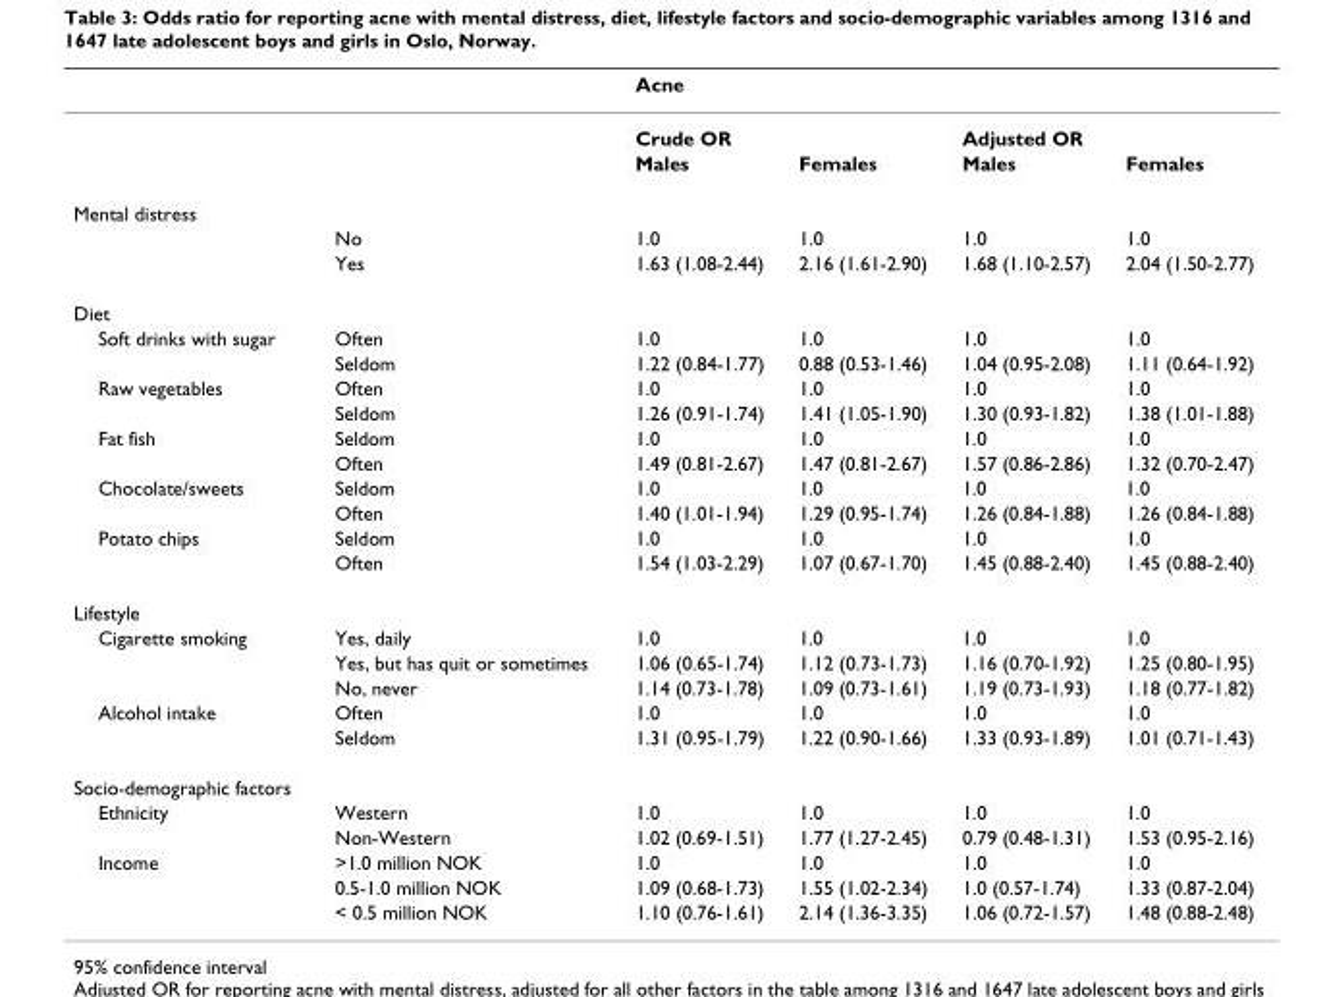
<table><thead><tr><td rowspan="3"></td><td rowspan="3"></td><td colspan="4">Acne</td></tr><tr><td colspan="2">Crude OR</td><td colspan="2">Adjusted OR</td></tr><tr><td>Males</td><td>Females</td><td>Males</td><td>Females</td></tr></thead><tbody><tr><td colspan="6">Mental distress</td></tr><tr><td></td><td>No</td><td>1.0</td><td>1.0</td><td>1.0</td><td>1.0</td></tr><tr><td></td><td>Yes</td><td>1.63 (1.08-2.44)</td><td>2.16 (1.61-2.90)</td><td>1.68 (1.10-2.57)</td><td>2.04 (1.50-2.77)</td></tr><tr><td colspan="6">Diet</td></tr><tr><td rowspan="2">Soft drinks with sugar</td><td>Often</td><td>1.0</td><td>1.0</td><td>1.0</td><td>1.0</td></tr><tr><td>Seldom</td><td>1.22 (0.84-1.77)</td><td>0.88 (0.53-1.46)</td><td>1.04 (0.95-2.08)</td><td>1.11 (0.64-1.92)</td></tr><tr><td rowspan="2">Raw vegetables</td><td>Often</td><td>1.0</td><td>1.0</td><td>1.0</td><td>1.0</td></tr><tr><td>Seldom</td><td>1.26 (0.91-1.74)</td><td>1.41 (1.05-1.90)</td><td>1.30 (0.93-1.82)</td><td>1.38 (1.01-1.88)</td></tr><tr><td rowspan="2">Fat fish</td><td>Seldom</td><td>1.0</td><td>1.0</td><td>1.0</td><td>1.0</td></tr><tr><td>Often</td><td>1.49 (0.81-2.67)</td><td>1.47 (0.81-2.67)</td><td>1.57 (0.86-2.86)</td><td>1.32 (0.70-2.47)</td></tr><tr><td rowspan="2">Chocolate/sweets</td><td>Seldom</td><td>1.0</td><td>1.0</td><td>1.0</td><td>1.0</td></tr><tr><td>Often</td><td>1.40 (1.01-1.94)</td><td>1.29 (0.95-1.74)</td><td>1.26 (0.84-1.88)</td><td>1.26 (0.84-1.88)</td></tr><tr><td rowspan="2">Potato chips</td><td>Seldom</td><td>1.0</td><td>1.0</td><td>1.0</td><td>1.0</td></tr><tr><td>Often</td><td>1.54 (1.03-2.29)</td><td>1.07 (0.67-1.70)</td><td>1.45 (0.88-2.40)</td><td>1.45 (0.88-2.40)</td></tr><tr><td colspan="6">Lifestyle</td></tr><tr><td rowspan="3">Cigarette smoking</td><td>Yes, daily</td><td>1.0</td><td>1.0</td><td>1.0</td><td>1.0</td></tr><tr><td>Yes, but has quit or sometimes</td><td>1.06 (0.65-1.74)</td><td>1.12 (0.73-1.73)</td><td>1.16 (0.70-1.92)</td><td>1.25 (0.80-1.95)</td></tr><tr><td>No, never</td><td>1.14 (0.73-1.78)</td><td>1.09 (0.73-1.61)</td><td>1.19 (0.73-1.93)</td><td>1.18 (0.77-1.82)</td></tr><tr><td rowspan="2">Alcohol intake</td><td>Often</td><td>1.0</td><td>1.0</td><td>1.0</td><td>1.0</td></tr><tr><td>Seldom</td><td>1.31 (0.95-1.79)</td><td>1.22 (0.90-1.66)</td><td>1.33 (0.93-1.89)</td><td>1.01 (0.71-1.43)</td></tr><tr><td colspan="6">Socio-demographic factors</td></tr><tr><td rowspan="2">Ethnicity</td><td>Western</td><td>1.0</td><td>1.0</td><td>1.0</td><td>1.0</td></tr><tr><td>Non-Western</td><td>1.02 (0.69-1.51)</td><td>1.77 (1.27-2.45)</td><td>0.79 (0.48-1.31)</td><td>1.53 (0.95-2.16)</td></tr><tr><td rowspan="3">Income</td><td>&gt;1.0 million NOK</td><td>1.0</td><td>1.0</td><td>1.0</td><td>1.0</td></tr><tr><td>0.5-1.0 million NOK</td><td>1.09 (0.68-1.73)</td><td>1.55 (1.02-2.34)</td><td>1.0 (0.57-1.74)</td><td>1.33 (0.87-2.04)</td></tr><tr><td>&lt; 0.5 million NOK</td><td>1.10 (0.76-1.61)</td><td>2.14 (1.36-3.35)</td><td>1.06 (0.72-1.57)</td><td>1.48 (0.88-2.48)</td></tr></tbody></table>